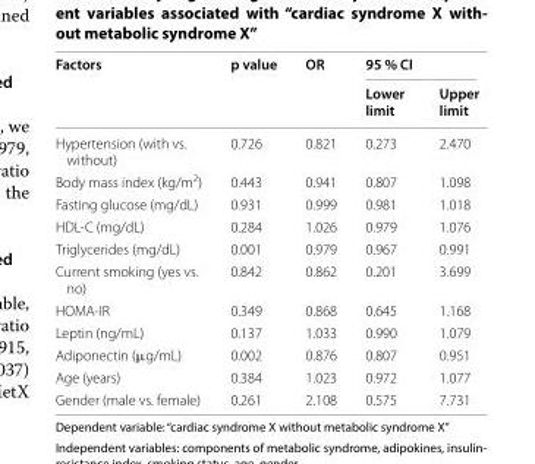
<table><thead><tr><td rowspan="2">Factors</td><td rowspan="2">p value</td><td rowspan="2">OR</td><td colspan="2">95 % CI</td></tr><tr><td>Lower limit</td><td>Upper limit</td></tr></thead><tbody><tr><td>Hypertension (with vs. without)</td><td>0.726</td><td>0.821</td><td>0.273</td><td>2.470</td></tr><tr><td>Body mass index (kg/m<sup>2</sup>)</td><td>0.443</td><td>0.941</td><td>0.807</td><td>1.098</td></tr><tr><td>Fasting glucose (mg/dL)</td><td>0.931</td><td>0.999</td><td>0.981</td><td>1.018</td></tr><tr><td>HDL‑C (mg/dL)</td><td>0.284</td><td>1.026</td><td>0.979</td><td>1.076</td></tr><tr><td>Triglycerides (mg/dL)</td><td>0.001</td><td>0.979</td><td>0.967</td><td>0.991</td></tr><tr><td>Current smoking (yes vs. no)</td><td>0.842</td><td>0.862</td><td>0.201</td><td>3.699</td></tr><tr><td>HOMA‑IR</td><td>0.349</td><td>0.868</td><td>0.645</td><td>1.168</td></tr><tr><td>Leptin (ng/mL)</td><td>0.137</td><td>1.033</td><td>0.990</td><td>1.079</td></tr><tr><td>Adiponectin (μg/mL)</td><td>0.002</td><td>0.876</td><td>0.807</td><td>0.951</td></tr><tr><td>Age (years)</td><td>0.384</td><td>1.023</td><td>0.972</td><td>1.077</td></tr><tr><td>Gender (male vs. female)</td><td>0.261</td><td>2.108</td><td>0.575</td><td>7.731</td></tr></tbody></table>